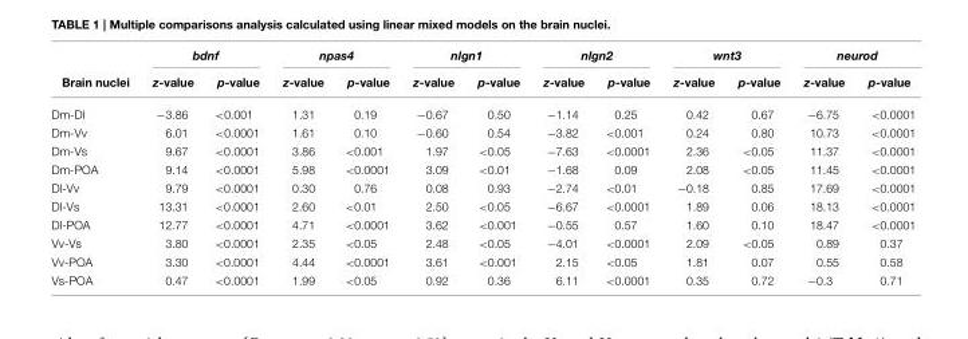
<table><thead><tr><td rowspan="2">Brain nuclei</td><td colspan="2">bdnf</td><td colspan="2">npas4</td><td colspan="2">nlgn1</td><td colspan="2">nlgn2</td><td colspan="2">wnt3</td><td colspan="2">neurod</td></tr><tr><td>z-value</td><td>p-value</td><td>z-value</td><td>p-value</td><td>z-value</td><td>p-value</td><td>z-value</td><td>p-value</td><td>z-value</td><td>p-value</td><td>z-value</td><td>p-value</td></tr></thead><tbody><tr><td>Dm-Dl</td><td>−3.86</td><td>&lt;0.001</td><td>1.31</td><td>0.19</td><td>−0.67</td><td>0.50</td><td>−1.14</td><td>0.25</td><td>0.42</td><td>0.67</td><td>−6.75</td><td>&lt;0.0001</td></tr><tr><td>Dm-Vv</td><td>6.01</td><td>&lt;0.0001</td><td>1.61</td><td>0.10</td><td>−0.60</td><td>0.54</td><td>−3.82</td><td>&lt;0.001</td><td>0.24</td><td>0.80</td><td>10.73</td><td>&lt;0.0001</td></tr><tr><td>Dm-Vs</td><td>9.67</td><td>&lt;0.0001</td><td>3.86</td><td>&lt;0.001</td><td>1.97</td><td>&lt;0.05</td><td>−7.63</td><td>&lt;0.0001</td><td>2.36</td><td>&lt;0.05</td><td>11.37</td><td>&lt;0.0001</td></tr><tr><td>Dm-POA</td><td>9.14</td><td>&lt;0.0001</td><td>5.98</td><td>&lt;0.0001</td><td>3.09</td><td>&lt;0.01</td><td>−1.68</td><td>0.09</td><td>2.08</td><td>&lt;0.05</td><td>11.45</td><td>&lt;0.0001</td></tr><tr><td>Dl-Vv</td><td>9.79</td><td>&lt;0.0001</td><td>0.30</td><td>0.76</td><td>0.08</td><td>0.93</td><td>−2.74</td><td>&lt;0.01</td><td>−0.18</td><td>0.85</td><td>17.69</td><td>&lt;0.0001</td></tr><tr><td>Dl-Vs</td><td>13.31</td><td>&lt;0.0001</td><td>2.60</td><td>&lt;0.01</td><td>2.50</td><td>&lt;0.05</td><td>−6.67</td><td>&lt;0.0001</td><td>1.89</td><td>0.06</td><td>18.13</td><td>&lt;0.0001</td></tr><tr><td>Dl-POA</td><td>12.77</td><td>&lt;0.0001</td><td>4.71</td><td>&lt;0.0001</td><td>3.62</td><td>&lt;0.001</td><td>−0.55</td><td>0.57</td><td>1.60</td><td>0.10</td><td>18.47</td><td>&lt;0.0001</td></tr><tr><td>Vv-Vs</td><td>3.80</td><td>&lt;0.0001</td><td>2.35</td><td>&lt;0.05</td><td>2.48</td><td>&lt;0.05</td><td>−4.01</td><td>&lt;0.0001</td><td>2.09</td><td>&lt;0.05</td><td>0.89</td><td>0.37</td></tr><tr><td>Vv-POA</td><td>3.30</td><td>&lt;0.0001</td><td>4.44</td><td>&lt;0.0001</td><td>3.61</td><td>&lt;0.001</td><td>2.15</td><td>&lt;0.05</td><td>1.81</td><td>0.07</td><td>0.55</td><td>0.58</td></tr><tr><td>Vs-POA</td><td>0.47</td><td>&lt;0.0001</td><td>1.99</td><td>&lt;0.05</td><td>0.92</td><td>0.36</td><td>6.11</td><td>&lt;0.0001</td><td>0.35</td><td>0.72</td><td>−0.3</td><td>0.71</td></tr></tbody></table>